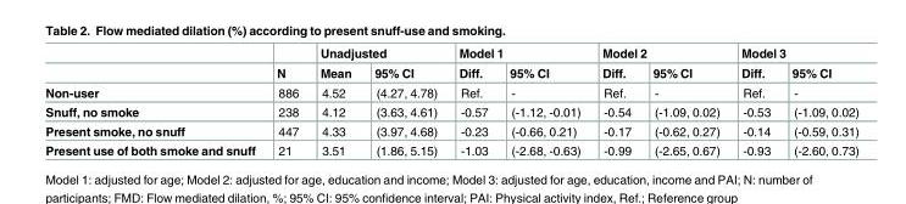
<table><thead><tr><td rowspan="2"></td><td rowspan="2">N</td><td colspan="2">Unadjusted</td><td colspan="2">Model 1</td><td colspan="2">Model 2</td><td colspan="2">Model 3</td></tr><tr><td>Mean</td><td>95% CI</td><td>Diff.</td><td>95% CI</td><td>Diff.</td><td>95% CI</td><td>Diff.</td><td>95% CI</td></tr></thead><tbody><tr><td>Non-user</td><td>886</td><td>4.52</td><td>(4.27, 4.78)</td><td>Ref.</td><td>-</td><td>Ref.</td><td>-</td><td>Ref.</td><td>-</td></tr><tr><td>Snuff, no smoke</td><td>238</td><td>4.12</td><td>(3.63, 4.61)</td><td>-0.57</td><td>(-1.12, -0.01)</td><td>-0.54</td><td>(-1.09, 0.02)</td><td>-0.53</td><td>(-1.09, 0.02)</td></tr><tr><td>Present smoke, no snuff</td><td>447</td><td>4.33</td><td>(3.97, 4.68)</td><td>-0.23</td><td>(-0.66, 0.21)</td><td>-0.17</td><td>(-0.62, 0.27)</td><td>-0.14</td><td>(-0.59, 0.31)</td></tr><tr><td>Present use of both smoke and snuff</td><td>21</td><td>3.51</td><td>(1.86, 5.15)</td><td>-1.03</td><td>(-2.68, -0.63)</td><td>-0.99</td><td>(-2.65, 0.67)</td><td>-0.93</td><td>(-2.60, 0.73)</td></tr></tbody></table>